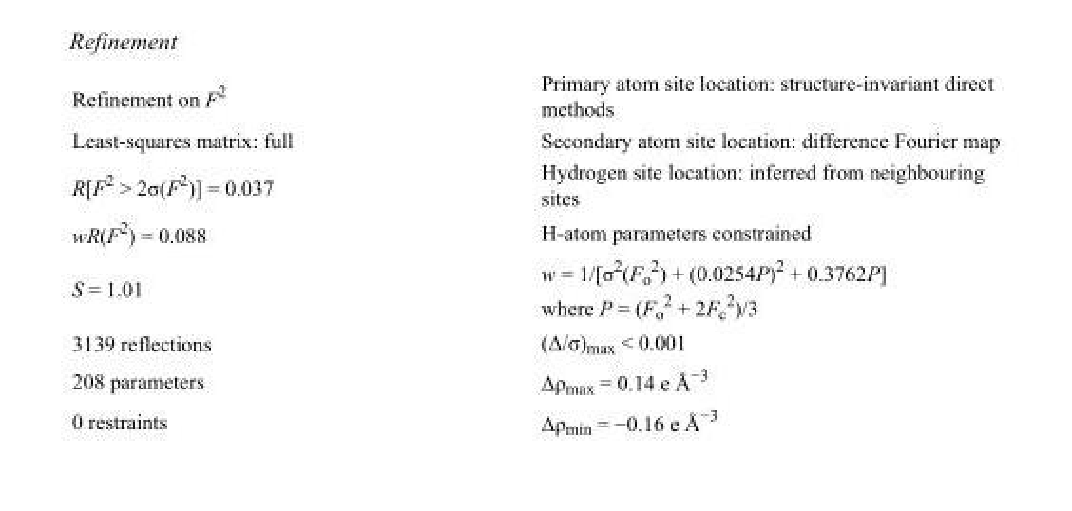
<table><tbody><tr><td>Refinement on F<sup>2</sup></td><td>Primary atom site location: structure-invariant direct methods</td></tr><tr><td>Least-squares matrix: full</td><td>Secondary atom site location: difference Fourier map</td></tr><tr><td>R[F<sup>2</sup> &gt; 2σ(F<sup>2</sup>)] = 0.037</td><td>Hydrogen site location: inferred from neighbouring sites</td></tr><tr><td>wR(F<sup>2</sup>) = 0.088</td><td>H-atom parameters constrained</td></tr><tr><td>S = 1.01</td><td>w = 1/[σ<sup>2</sup>(F<sub>o</sub> <sup>2</sup>) + (0.0254P)<sup>2</sup> + 0.3762P] where P = (F<sub>o</sub> <sup>2</sup> + 2F<sub>c</sub> <sup>2</sup>)/3</td></tr><tr><td>3139 reflections</td><td>(Δ/σ)<sub>max</sub> &lt; 0.001</td></tr><tr><td>208 parameters</td><td>Δρ<sub>max</sub> = 0.14 e Å<sup>−3</sup></td></tr><tr><td>0 restraints</td><td>Δρ<sub>min</sub> = −0.16 e Å<sup>−3</sup></td></tr></tbody></table>